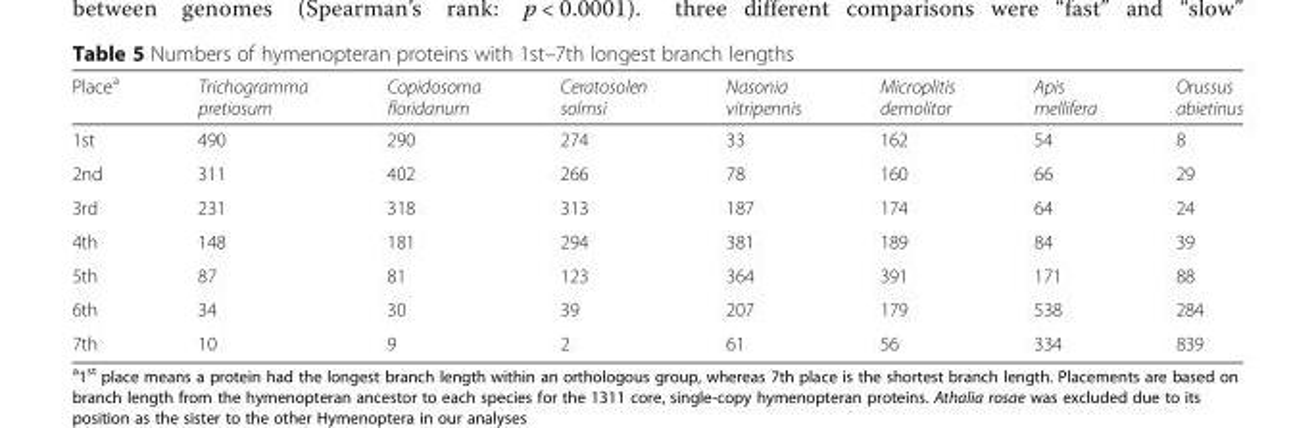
<table><thead><tr><td>Place<sup>a</sup></td><td>Trichogramma pretiosum</td><td>Copidosoma floridanum</td><td>Ceratosolen solmsi</td><td>Nasonia vitripennis</td><td>Microplitis demolitor</td><td>Apis mellifera</td><td>Orussus abietinus</td></tr></thead><tbody><tr><td>1st</td><td>490</td><td>290</td><td>274</td><td>33</td><td>162</td><td>54</td><td>8</td></tr><tr><td>2nd</td><td>311</td><td>402</td><td>266</td><td>78</td><td>160</td><td>66</td><td>29</td></tr><tr><td>3rd</td><td>231</td><td>318</td><td>313</td><td>187</td><td>174</td><td>64</td><td>24</td></tr><tr><td>4th</td><td>148</td><td>181</td><td>294</td><td>381</td><td>189</td><td>84</td><td>39</td></tr><tr><td>5th</td><td>87</td><td>81</td><td>123</td><td>364</td><td>391</td><td>171</td><td>88</td></tr><tr><td>6th</td><td>34</td><td>30</td><td>39</td><td>207</td><td>179</td><td>538</td><td>284</td></tr><tr><td>7th</td><td>10</td><td>9</td><td>2</td><td>61</td><td>56</td><td>334</td><td>839</td></tr></tbody></table>